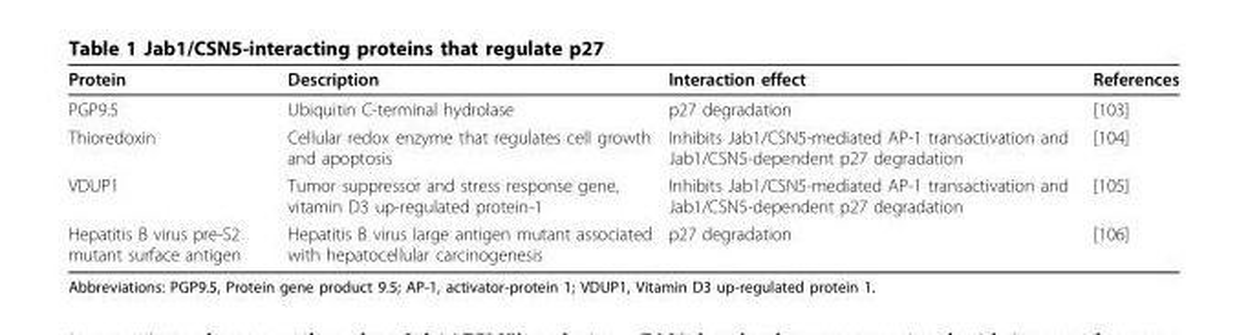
<table><thead><tr><td>Protein</td><td>Description</td><td>Interaction effect</td><td>References</td></tr></thead><tbody><tr><td>PGP9.5</td><td>Ubiquitin C-terminal hydrolase</td><td>p27 degradation</td><td>[103]</td></tr><tr><td>Thioredoxin</td><td>Cellular redox enzyme that regulates cell growth and apoptosis</td><td>Inhibits Jab1/CSN5-mediated AP-1 transactivation and Jab1/CSN5-dependent p27 degradation</td><td>[104]</td></tr><tr><td>VDUP1</td><td>Tumor suppressor and stress response gene, vitamin D3 up-regulated protein-1</td><td>Inhibits Jab1/CSN5-mediated AP-1 transactivation and Jab1/CSN5-dependent p27 degradation</td><td>[105]</td></tr><tr><td>Hepatitis B virus pre-S2 mutant surface antigen</td><td>Hepatitis B virus large antigen mutant associated with hepatocellular carcinogenesis</td><td>p27 degradation</td><td>[106]</td></tr></tbody></table>